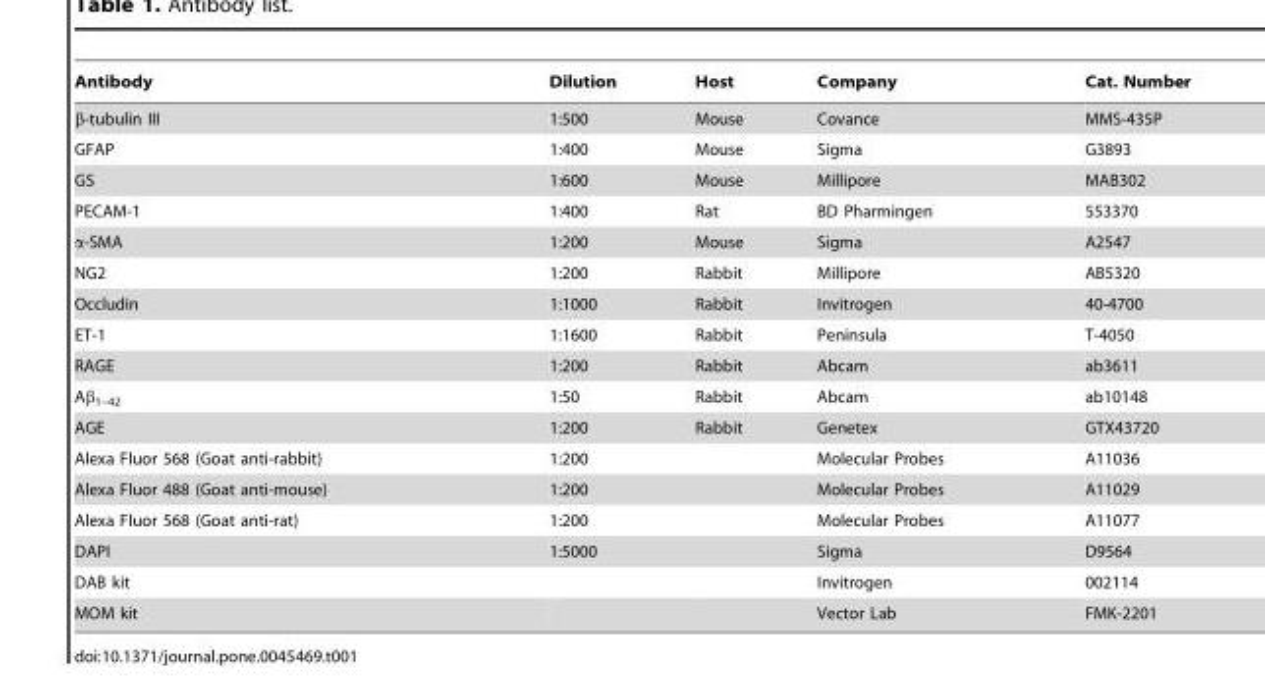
<table><thead><tr><td>Antibody</td><td>Dilution</td><td>Host</td><td>Company</td><td>Cat. Number</td></tr></thead><tbody><tr><td>β-tubulin III</td><td>1:500</td><td>Mouse</td><td>Covance</td><td>MMS-435P</td></tr><tr><td>GFAP</td><td>1:400</td><td>Mouse</td><td>Sigma</td><td>G3893</td></tr><tr><td>GS</td><td>1:600</td><td>Mouse</td><td>Millipore</td><td>MAB302</td></tr><tr><td>PECAM-1</td><td>1:400</td><td>Rat</td><td>BD Pharmingen</td><td>553370</td></tr><tr><td>α-SMA</td><td>1:200</td><td>Mouse</td><td>Sigma</td><td>A2547</td></tr><tr><td>NG2</td><td>1:200</td><td>Rabbit</td><td>Millipore</td><td>AB5320</td></tr><tr><td>Occludin</td><td>1:1000</td><td>Rabbit</td><td>Invitrogen</td><td>40-4700</td></tr><tr><td>ET-1</td><td>1:1600</td><td>Rabbit</td><td>Peninsula</td><td>T-4050</td></tr><tr><td>RAGE</td><td>1:200</td><td>Rabbit</td><td>Abcam</td><td>ab3611</td></tr><tr><td>Aβ<sub>1–42</sub></td><td>1:50</td><td>Rabbit</td><td>Abcam</td><td>ab10148</td></tr><tr><td>AGE</td><td>1:200</td><td>Rabbit</td><td>Genetex</td><td>GTX43720</td></tr><tr><td>Alexa Fluor 568 (Goat anti-rabbit)</td><td>1:200</td><td></td><td>Molecular Probes</td><td>A11036</td></tr><tr><td>Alexa Fluor 488 (Goat anti-mouse)</td><td>1:200</td><td></td><td>Molecular Probes</td><td>A11029</td></tr><tr><td>Alexa Fluor 568 (Goat anti-rat)</td><td>1:200</td><td></td><td>Molecular Probes</td><td>A11077</td></tr><tr><td>DAPI</td><td>1:5000</td><td></td><td>Sigma</td><td>D9564</td></tr><tr><td>DAB kit</td><td></td><td></td><td>Invitrogen</td><td>002114</td></tr><tr><td>MOM kit</td><td></td><td></td><td>Vector Lab</td><td>FMK-2201</td></tr></tbody></table>